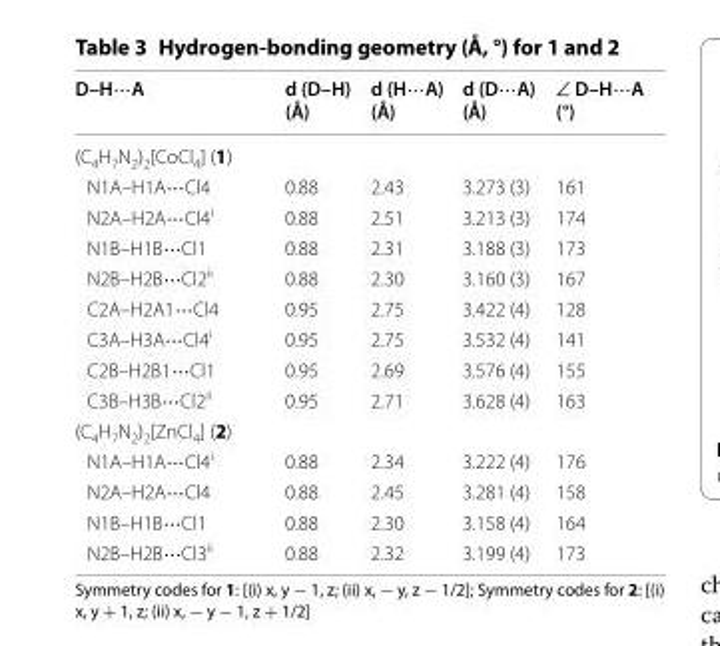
<table><thead><tr><td>D–H⋯A</td><td>d (D–H) (Å)</td><td>d (H⋯A) (Å)</td><td>d (D⋯A) (Å)</td><td>∠ D–H⋯A (°)</td></tr></thead><tbody><tr><td colspan="5">(C<sub>4</sub>H<sub>7</sub>N<sub>2</sub>)<sub>2</sub>[CoCl<sub>4</sub>] (1)</td></tr><tr><td>N1A–H1A⋯Cl4</td><td>0.88</td><td>2.43</td><td>3.273 (3)</td><td>161</td></tr><tr><td>N2A–H2A⋯Cl4<sup>i</sup></td><td>0.88</td><td>2.51</td><td>3.213 (3)</td><td>174</td></tr><tr><td>N1B–H1B⋯Cl1</td><td>0.88</td><td>2.31</td><td>3.188 (3)</td><td>173</td></tr><tr><td>N2B–H2B⋯Cl2<sup>ii</sup></td><td>0.88</td><td>2.30</td><td>3.160 (3)</td><td>167</td></tr><tr><td>C2A–H2A1⋯Cl4</td><td>0.95</td><td>2.75</td><td>3.422 (4)</td><td>128</td></tr><tr><td>C3A–H3A⋯Cl4<sup>i</sup></td><td>0.95</td><td>2.75</td><td>3.532 (4)</td><td>141</td></tr><tr><td>C2B–H2B1⋯Cl1</td><td>0.95</td><td>2.69</td><td>3.576 (4)</td><td>155</td></tr><tr><td>C3B–H3B⋯Cl2<sup>ii</sup></td><td>0.95</td><td>2.71</td><td>3.628 (4)</td><td>163</td></tr><tr><td colspan="5">(C<sub>4</sub>H<sub>7</sub>N<sub>2</sub>)<sub>2</sub>[ZnCl<sub>4</sub>] (2)</td></tr><tr><td>N1A–H1A⋯Cl4<sup>i</sup></td><td>0.88</td><td>2.34</td><td>3.222 (4)</td><td>176</td></tr><tr><td>N2A–H2A⋯Cl4</td><td>0.88</td><td>2.45</td><td>3.281 (4)</td><td>158</td></tr><tr><td>N1B–H1B⋯Cl1</td><td>0.88</td><td>2.30</td><td>3.158 (4)</td><td>164</td></tr><tr><td>N2B–H2B⋯Cl3<sup>ii</sup></td><td>0.88</td><td>2.32</td><td>3.199 (4)</td><td>173</td></tr></tbody></table>